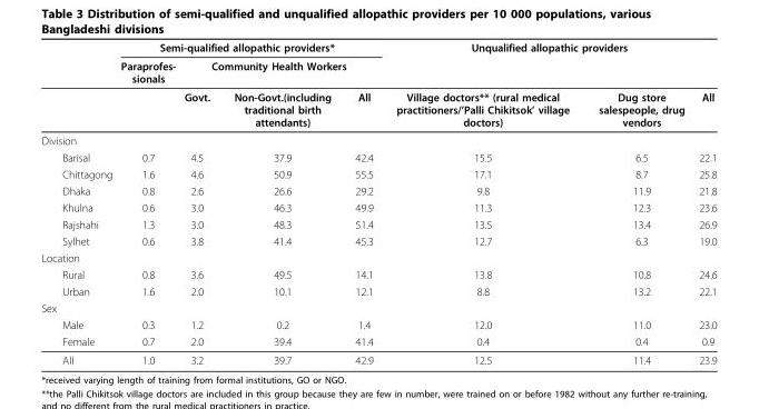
<table><thead><tr><td rowspan="3"></td><td colspan="4">Semi-qualified allopathic providers*</td><td colspan="3">Unqualified allopathic providers</td></tr><tr><td rowspan="2">Paraprofes- sionals</td><td colspan="3">Community Health Workers</td><td rowspan="2">Village doctors** (rural medical practitioners/’Palli Chikitsok’ village doctors)</td><td rowspan="2">Dug store salespeople, drug vendors</td><td rowspan="2">All</td></tr><tr><td>Govt.</td><td>Non-Govt.(including traditional birth attendants)</td><td>All</td></tr></thead><tbody><tr><td colspan="8">Division</td></tr><tr><td>Barisal</td><td>0.7</td><td>4.5</td><td>37.9</td><td>42.4</td><td>15.5</td><td>6.5</td><td>22.1</td></tr><tr><td>Chittagong</td><td>1.6</td><td>4.6</td><td>50.9</td><td>55.5</td><td>17.1</td><td>8.7</td><td>25.8</td></tr><tr><td>Dhaka</td><td>0.8</td><td>2.6</td><td>26.6</td><td>29.2</td><td>9.8</td><td>11.9</td><td>21.8</td></tr><tr><td>Khulna</td><td>0.6</td><td>3.0</td><td>46.3</td><td>49.9</td><td>11.3</td><td>12.3</td><td>23.6</td></tr><tr><td>Rajshahi</td><td>1.3</td><td>3.0</td><td>48.3</td><td>51.4</td><td>13.5</td><td>13.4</td><td>26.9</td></tr><tr><td>Sylhet</td><td>0.6</td><td>3.8</td><td>41.4</td><td>45.3</td><td>12.7</td><td>6.3</td><td>19.0</td></tr><tr><td colspan="8">Location</td></tr><tr><td>Rural</td><td>0.8</td><td>3.6</td><td>49.5</td><td>14.1</td><td>13.8</td><td>10.8</td><td>24.6</td></tr><tr><td>Urban</td><td>1.6</td><td>2.0</td><td>10.1</td><td>12.1</td><td>8.8</td><td>13.2</td><td>22.1</td></tr><tr><td colspan="8">Sex</td></tr><tr><td>Male</td><td>0.3</td><td>1.2</td><td>0.2</td><td>1.4</td><td>12.0</td><td>11.0</td><td>23.0</td></tr><tr><td>Female</td><td>0.7</td><td>2.0</td><td>39.4</td><td>41.4</td><td>0.4</td><td>0.4</td><td>0.9</td></tr><tr><td>All</td><td>1.0</td><td>3.2</td><td>39.7</td><td>42.9</td><td>12.5</td><td>11.4</td><td>23.9</td></tr></tbody></table>